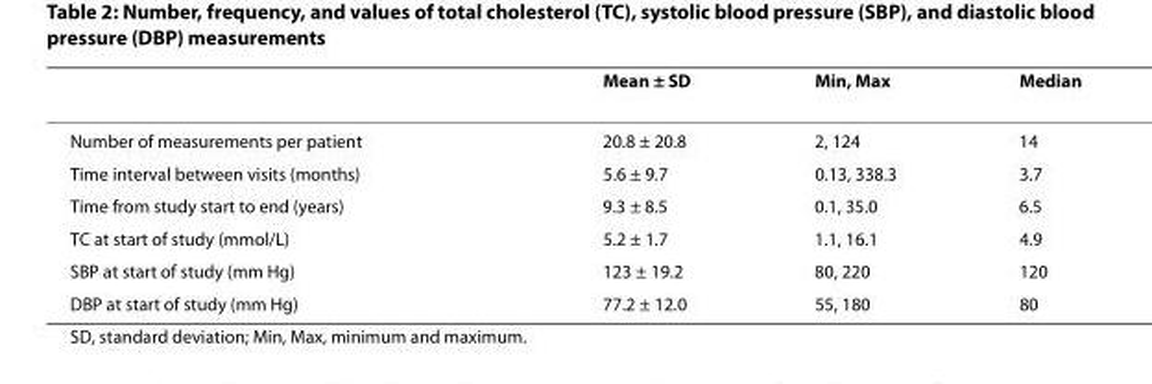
<table><thead><tr><td></td><td>Mean ± SD</td><td>Min, Max</td><td>Median</td></tr></thead><tbody><tr><td>Number of measurements per patient</td><td>20.8 ± 20.8</td><td>2, 124</td><td>14</td></tr><tr><td>Time interval between visits (months)</td><td>5.6 ± 9.7</td><td>0.13, 338.3</td><td>3.7</td></tr><tr><td>Time from study start to end (years)</td><td>9.3 ± 8.5</td><td>0.1, 35.0</td><td>6.5</td></tr><tr><td>TC at start of study (mmol/L)</td><td>5.2 ± 1.7</td><td>1.1, 16.1</td><td>4.9</td></tr><tr><td>SBP at start of study (mm Hg)</td><td>123 ± 19.2</td><td>80, 220</td><td>120</td></tr><tr><td>DBP at start of study (mm Hg)</td><td>77.2 ± 12.0</td><td>55, 180</td><td>80</td></tr></tbody></table>